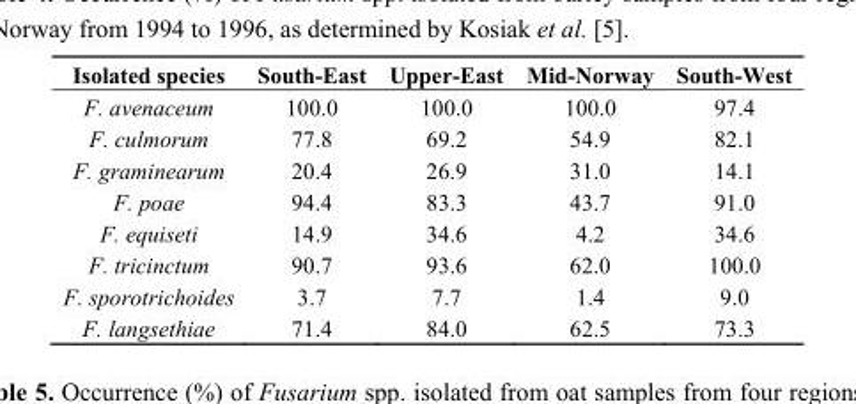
<table><thead><tr><td>Isolated species</td><td>South-East</td><td>Upper-East</td><td>Mid-Norway</td><td>South-West</td></tr></thead><tbody><tr><td>F. avenaceum</td><td>100.0</td><td>100.0</td><td>100.0</td><td>97.4</td></tr><tr><td>F. culmorum</td><td>77.8</td><td>69.2</td><td>54.9</td><td>82.1</td></tr><tr><td>F. graminearum</td><td>20.4</td><td>26.9</td><td>31.0</td><td>14.1</td></tr><tr><td>F. poae</td><td>94.4</td><td>83.3</td><td>43.7</td><td>91.0</td></tr><tr><td>F. equiseti</td><td>14.9</td><td>34.6</td><td>4.2</td><td>34.6</td></tr><tr><td>F. tricinctum</td><td>90.7</td><td>93.6</td><td>62.0</td><td>100.0</td></tr><tr><td>F. sporotrichoides</td><td>3.7</td><td>7.7</td><td>1.4</td><td>9.0</td></tr><tr><td>F. langsethiae</td><td>71.4</td><td>84.0</td><td>62.5</td><td>73.3</td></tr></tbody></table>